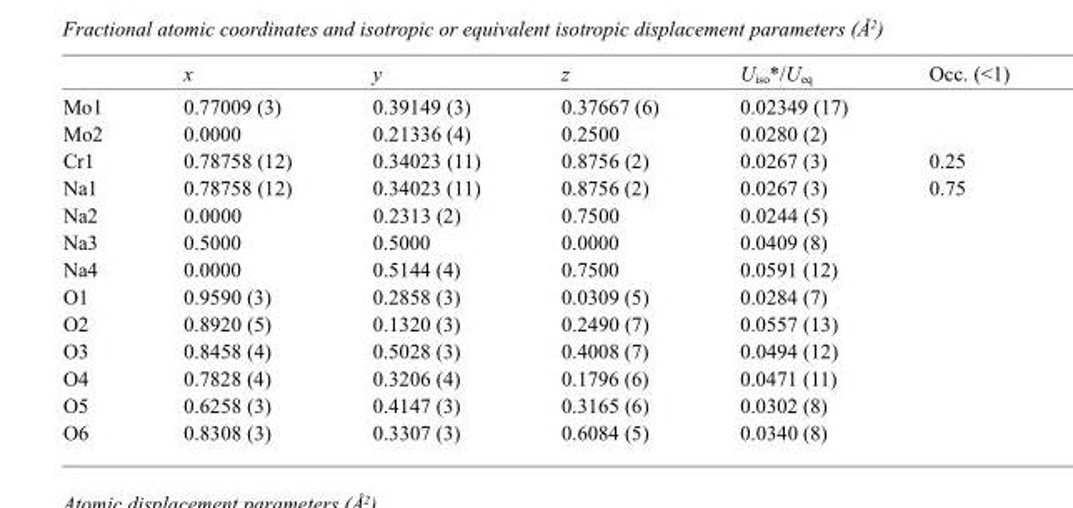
<table><thead><tr><td></td><td>x</td><td>y</td><td>z</td><td>U<sub>iso</sub>*/U<sub>eq</sub></td><td>Occ. (&lt;1)</td></tr></thead><tbody><tr><td>Mo1</td><td>0.77009 (3)</td><td>0.39149 (3)</td><td>0.37667 (6)</td><td>0.02349 (17)</td><td></td></tr><tr><td>Mo2</td><td>0.0000</td><td>0.21336 (4)</td><td>0.2500</td><td>0.0280 (2)</td><td></td></tr><tr><td>Cr1</td><td>0.78758 (12)</td><td>0.34023 (11)</td><td>0.8756 (2)</td><td>0.0267 (3)</td><td>0.25</td></tr><tr><td>Na1</td><td>0.78758 (12)</td><td>0.34023 (11)</td><td>0.8756 (2)</td><td>0.0267 (3)</td><td>0.75</td></tr><tr><td>Na2</td><td>0.0000</td><td>0.2313 (2)</td><td>0.7500</td><td>0.0244 (5)</td><td></td></tr><tr><td>Na3</td><td>0.5000</td><td>0.5000</td><td>0.0000</td><td>0.0409 (8)</td><td></td></tr><tr><td>Na4</td><td>0.0000</td><td>0.5144 (4)</td><td>0.7500</td><td>0.0591 (12)</td><td></td></tr><tr><td>O1</td><td>0.9590 (3)</td><td>0.2858 (3)</td><td>0.0309 (5)</td><td>0.0284 (7)</td><td></td></tr><tr><td>O2</td><td>0.8920 (5)</td><td>0.1320 (3)</td><td>0.2490 (7)</td><td>0.0557 (13)</td><td></td></tr><tr><td>O3</td><td>0.8458 (4)</td><td>0.5028 (3)</td><td>0.4008 (7)</td><td>0.0494 (12)</td><td></td></tr><tr><td>O4</td><td>0.7828 (4)</td><td>0.3206 (4)</td><td>0.1796 (6)</td><td>0.0471 (11)</td><td></td></tr><tr><td>O5</td><td>0.6258 (3)</td><td>0.4147 (3)</td><td>0.3165 (6)</td><td>0.0302 (8)</td><td></td></tr><tr><td>O6</td><td>0.8308 (3)</td><td>0.3307 (3)</td><td>0.6084 (5)</td><td>0.0340 (8)</td><td></td></tr></tbody></table>